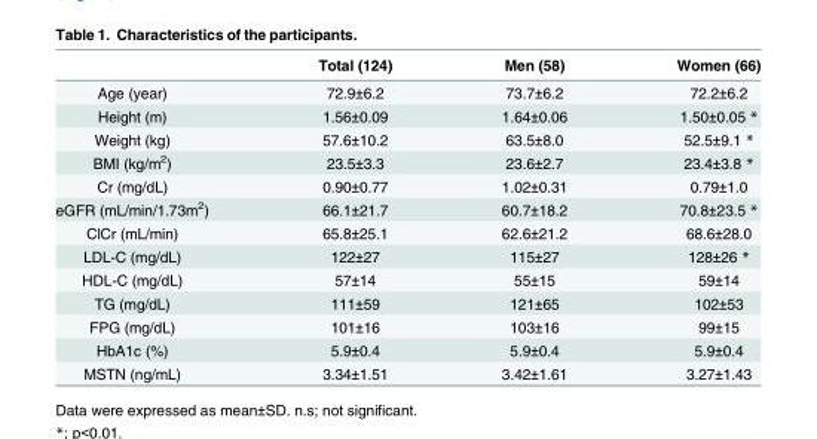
<table><thead><tr><td></td><td>Total (124)</td><td>Men (58)</td><td>Women (66)</td></tr></thead><tbody><tr><td>Age (year)</td><td>72.9±6.2</td><td>73.7±6.2</td><td>72.2±6.2</td></tr><tr><td>Height (m)</td><td>1.56±0.09</td><td>1.64±0.06</td><td>1.50±0.05 *</td></tr><tr><td>Weight (kg)</td><td>57.6±10.2</td><td>63.5±8.0</td><td>52.5±9.1 *</td></tr><tr><td>BMI (kg/m<sup>2</sup>)</td><td>23.5±3.3</td><td>23.6±2.7</td><td>23.4±3.8 *</td></tr><tr><td>Cr (mg/dL)</td><td>0.90±0.77</td><td>1.02±0.31</td><td>0.79±1.0</td></tr><tr><td>eGFR (mL/min/1.73m<sup>2</sup>)</td><td>66.1±21.7</td><td>60.7±18.2</td><td>70.8±23.5 *</td></tr><tr><td>ClCr (mL/min)</td><td>65.8±25.1</td><td>62.6±21.2</td><td>68.6±28.0</td></tr><tr><td>LDL-C (mg/dL)</td><td>122±27</td><td>115±27</td><td>128±26 *</td></tr><tr><td>HDL-C (mg/dL)</td><td>57±14</td><td>55±15</td><td>59±14</td></tr><tr><td>TG (mg/dL)</td><td>111±59</td><td>121±65</td><td>102±53</td></tr><tr><td>FPG (mg/dL)</td><td>101±16</td><td>103±16</td><td>99±15</td></tr><tr><td>HbA1c (%)</td><td>5.9±0.4</td><td>5.9±0.4</td><td>5.9±0.4</td></tr><tr><td>MSTN (ng/mL)</td><td>3.34±1.51</td><td>3.42±1.61</td><td>3.27±1.43</td></tr></tbody></table>